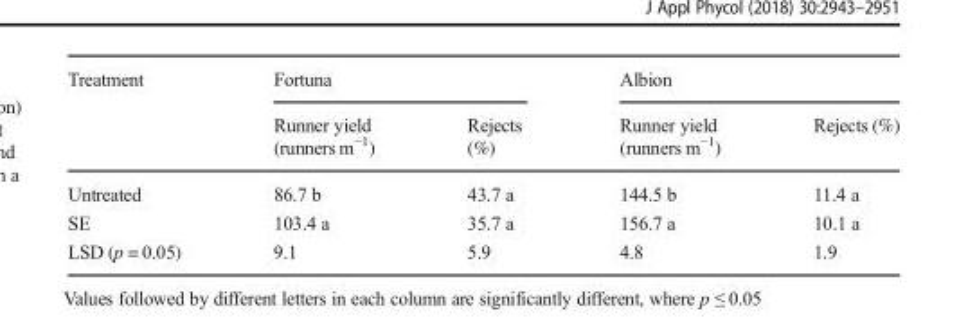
<table><thead><tr><td rowspan="2">Treatment</td><td colspan="2">Fortuna</td><td colspan="2">Albion</td></tr><tr><td>Runner yield (runners m<sup>−1</sup>)</td><td>Rejects (%)</td><td>Runner yield (runners m<sup>−1</sup>)</td><td>Rejects (%)</td></tr></thead><tbody><tr><td>Untreated</td><td>86.7 b</td><td>43.7 a</td><td>144.5 b</td><td>11.4 a</td></tr><tr><td>SE</td><td>103.4 a</td><td>35.7 a</td><td>156.7 a</td><td>10.1 a</td></tr><tr><td>LSD (p = 0.05)</td><td>9.1</td><td>5.9</td><td>4.8</td><td>1.9</td></tr></tbody></table>